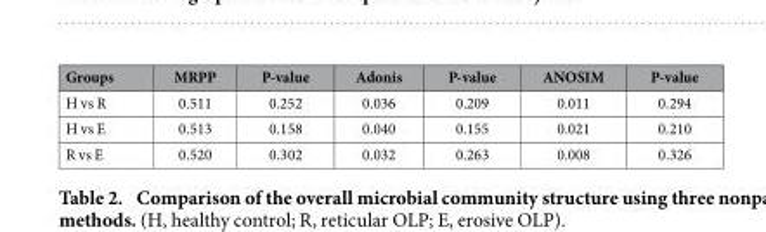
<table><thead><tr><td>Groups</td><td>MRPP</td><td>P-value</td><td>Adonis</td><td>P-value</td><td>ANOSIM</td><td>P-value</td></tr></thead><tbody><tr><td>H vs R</td><td>0.511</td><td>0.252</td><td>0.036</td><td>0.209</td><td>0.011</td><td>0.294</td></tr><tr><td>H vs E</td><td>0.513</td><td>0.158</td><td>0.040</td><td>0.155</td><td>0.021</td><td>0.210</td></tr><tr><td>R vs E</td><td>0.520</td><td>0.302</td><td>0.032</td><td>0.263</td><td>0.008</td><td>0.326</td></tr></tbody></table>